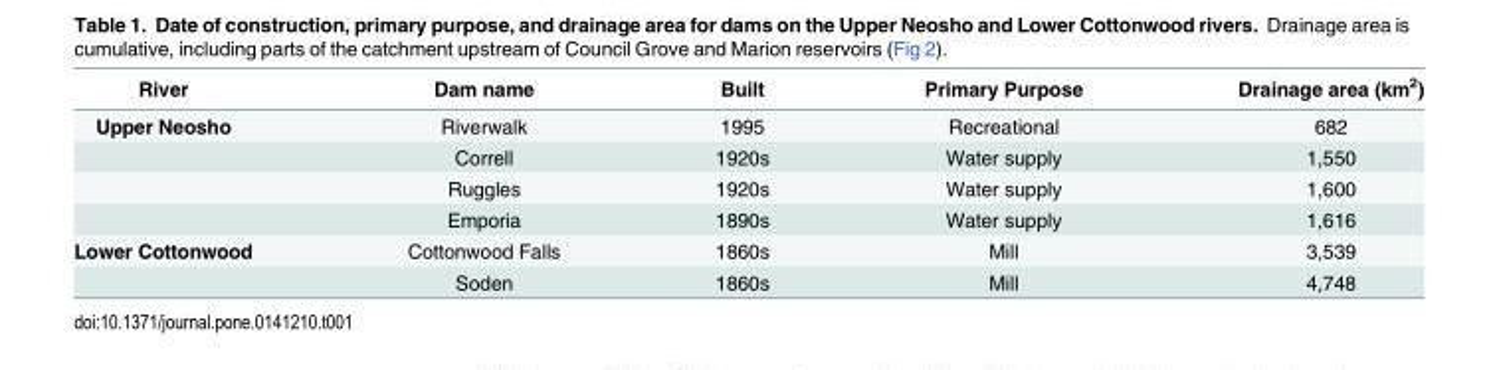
<table><thead><tr><td>River</td><td>Dam name</td><td>Built</td><td>Primary Purpose</td><td>Drainage area (km<sup>2</sup>)</td></tr></thead><tbody><tr><td rowspan="4">Upper Neosho</td><td>Riverwalk</td><td>1995</td><td>Recreational</td><td>682</td></tr><tr><td>Correll</td><td>1920s</td><td>Water supply</td><td>1,550</td></tr><tr><td>Ruggles</td><td>1920s</td><td>Water supply</td><td>1,600</td></tr><tr><td>Emporia</td><td>1890s</td><td>Water supply</td><td>1,616</td></tr><tr><td rowspan="2">Lower Cottonwood</td><td>Cottonwood Falls</td><td>1860s</td><td>Mill</td><td>3,539</td></tr><tr><td>Soden</td><td>1860s</td><td>Mill</td><td>4,748</td></tr></tbody></table>